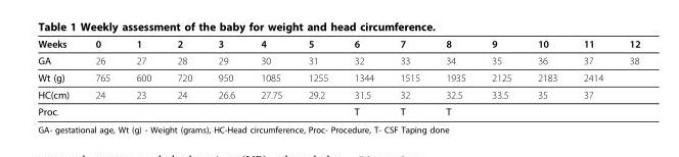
<table><thead><tr><td>Weeks</td><td>0</td><td>1</td><td>2</td><td>3</td><td>4</td><td>5</td><td>6</td><td>7</td><td>8</td><td>9</td><td>10</td><td>11</td><td>12</td></tr></thead><tbody><tr><td>GA</td><td>26</td><td>27</td><td>28</td><td>29</td><td>30</td><td>31</td><td>32</td><td>33</td><td>34</td><td>35</td><td>36</td><td>37</td><td>38</td></tr><tr><td>Wt (g)</td><td>765</td><td>600</td><td>720</td><td>950</td><td>1085</td><td>1255</td><td>1344</td><td>1515</td><td>1935</td><td>2125</td><td>2183</td><td>2414</td><td></td></tr><tr><td>HC(cm)</td><td>24</td><td>23</td><td>24</td><td>26.6</td><td>27.75</td><td>29.2</td><td>31.5</td><td>32</td><td>32.5</td><td>33.5</td><td>35</td><td>37</td><td></td></tr><tr><td>Proc.</td><td></td><td></td><td></td><td></td><td></td><td></td><td>T</td><td>T</td><td>T</td><td></td><td></td><td></td><td></td></tr></tbody></table>